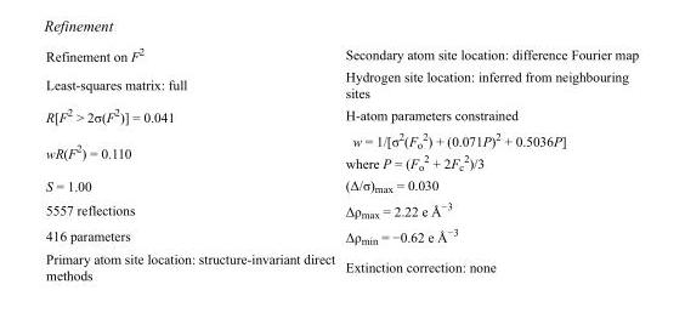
<table><tbody><tr><td>Refinement on F2</td><td>Secondary atom site location: difference Fourier map</td></tr><tr><td>Least-squares matrix: full</td><td>Hydrogen site location: inferred from neighbouring sites</td></tr><tr><td>R[F2 &gt; 2σ(F2)] = 0.041</td><td>H-atom parameters constrained</td></tr><tr><td>wR(F2) = 0.110</td><td>w = 1/[σ2(Fo 2) + (0.071P)2 + 0.5036P] where P = (Fo 2 + 2Fc 2)/3</td></tr><tr><td>S = 1.00</td><td>(Δ/σ)max = 0.030</td></tr><tr><td>5557 reflections</td><td>Δρmax = 2.22 e Å−3</td></tr><tr><td>416 parameters</td><td>Δρmin = −0.62 e Å−3</td></tr><tr><td>Primary atom site location: structure-invariant direct methods</td><td>Extinction correction: none</td></tr></tbody></table>